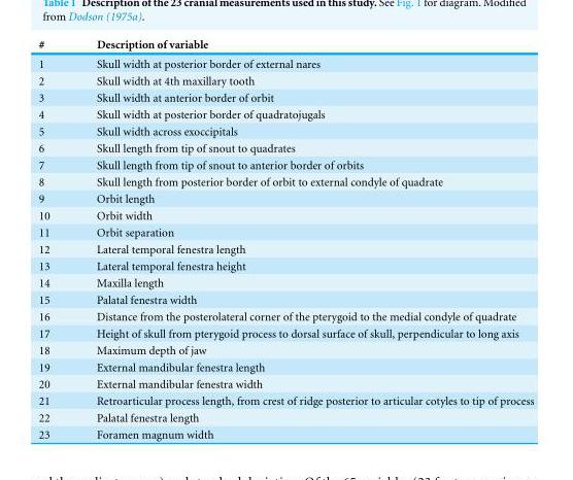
<table><thead><tr><td>#</td><td>Description of variable</td></tr></thead><tbody><tr><td>1</td><td>Skull width at posterior border of external nares</td></tr><tr><td>2</td><td>Skull width at 4th maxillary tooth</td></tr><tr><td>3</td><td>Skull width at anterior border of orbit</td></tr><tr><td>4</td><td>Skull width at posterior border of quadratojugals</td></tr><tr><td>5</td><td>Skull width across exoccipitals</td></tr><tr><td>6</td><td>Skull length from tip of snout to quadrates</td></tr><tr><td>7</td><td>Skull length from tip of snout to anterior border of orbits</td></tr><tr><td>8</td><td>Skull length from posterior border of orbit to external condyle of quadrate</td></tr><tr><td>9</td><td>Orbit length</td></tr><tr><td>10</td><td>Orbit width</td></tr><tr><td>11</td><td>Orbit separation</td></tr><tr><td>12</td><td>Lateral temporal fenestra length</td></tr><tr><td>13</td><td>Lateral temporal fenestra height</td></tr><tr><td>14</td><td>Maxilla length</td></tr><tr><td>15</td><td>Palatal fenestra width</td></tr><tr><td>16</td><td>Distance from the posterolateral corner of the pterygoid to the medial condyle of quadrate</td></tr><tr><td>17</td><td>Height of skull from pterygoid process to dorsal surface of skull, perpendicular to long axis</td></tr><tr><td>18</td><td>Maximum depth of jaw</td></tr><tr><td>19</td><td>External mandibular fenestra length</td></tr><tr><td>20</td><td>External mandibular fenestra width</td></tr><tr><td>21</td><td>Retroarticular process length, from crest of ridge posterior to articular cotyles to tip of process</td></tr><tr><td>22</td><td>Palatal fenestra length</td></tr><tr><td>23</td><td>Foramen magnum width</td></tr></tbody></table>